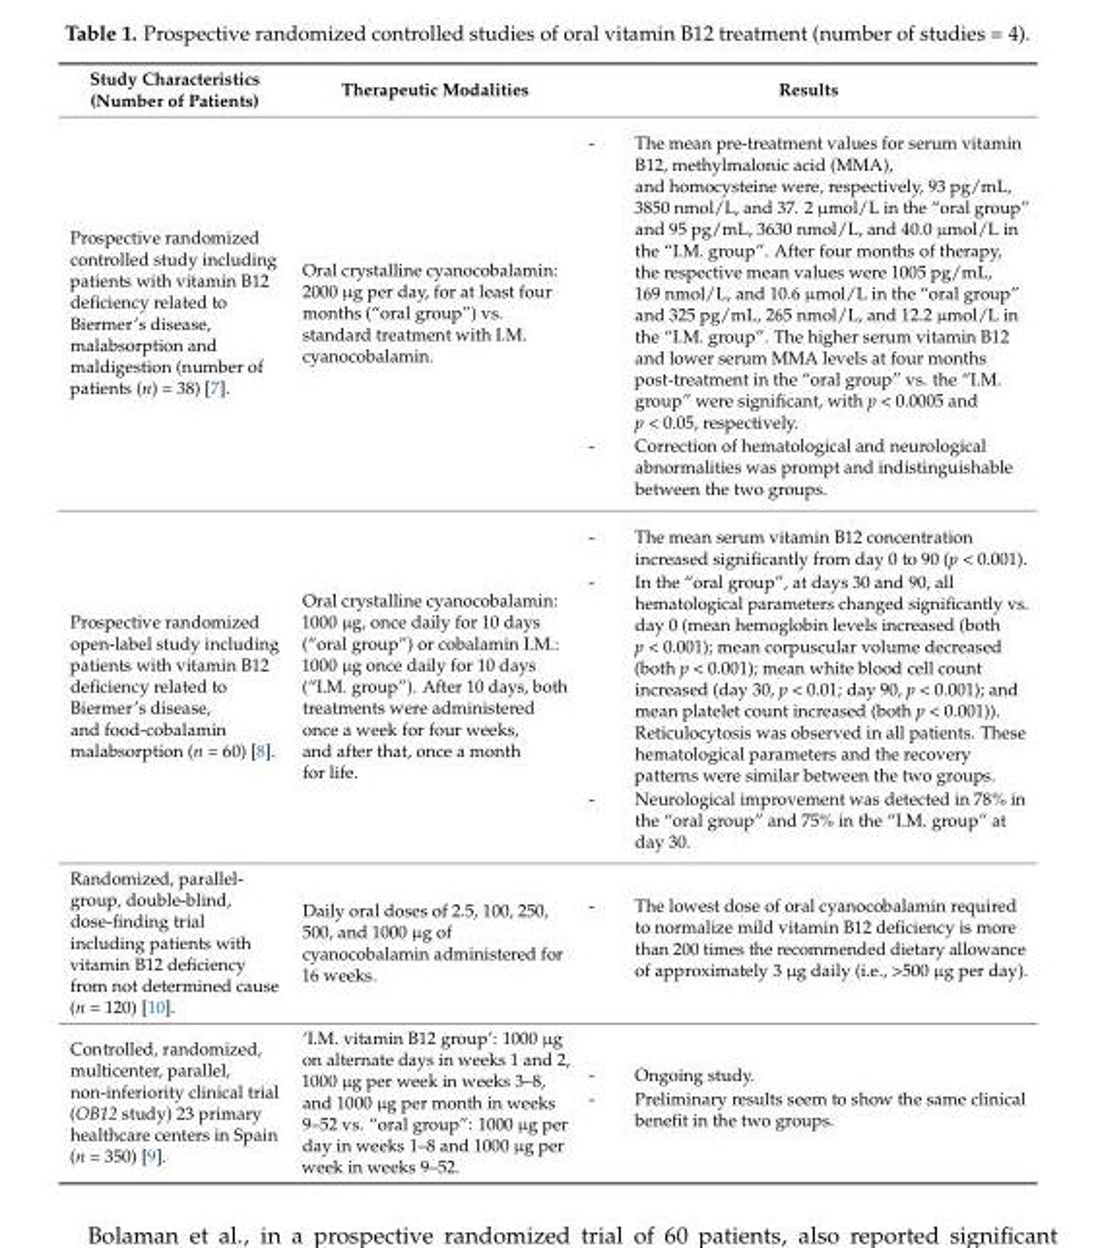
<table><thead><tr><td>Study Characteristics (Number of Patients)</td><td>Therapeutic Modalities</td><td>Results</td></tr></thead><tbody><tr><td>Prospective randomized controlled study including patients with vitamin B12 deficiency related to Biermer’s disease, malabsorption and maldigestion (number of patients (n) = 38) [7].</td><td>Oral crystalline cyanocobalamin: 2000 µg per day, for at least four months (“oral group”) vs. standard treatment with I.M. cyanocobalamin.</td><td>- The mean pre-treatment values for serum vitamin B12, methylmalonic acid (MMA), and homocysteine were, respectively, 93 pg/mL, 3850 nmol/L, and 37. 2 µmol/L in the “oral group” and 95 pg/mL, 3630 nmol/L, and 40.0 µmol/L in the “I.M. group”. After four months of therapy, the respective mean values were 1005 pg/mL, 169 nmol/L, and 10.6 µmol/L in the “oral group” and 325 pg/mL, 265 nmol/L, and 12.2 µmol/L in the “I.M. group”. The higher serum vitamin B12 and lower serum MMA levels at four months post-treatment in the “oral group” vs. the “I.M. group” were significant, with p &lt; 0.0005 and p &lt; 0.05, respectively. - Correction of hematological and neurological abnormalities was prompt and indistinguishable between the two groups.</td></tr><tr><td>Prospective randomized open-label study including patients with vitamin B12 deficiency related to Biermer’s disease, and food-cobalamin malabsorption (n = 60) [8].</td><td>Oral crystalline cyanocobalamin: 1000 µg, once daily for 10 days (“oral group”) or cobalamin I.M.: 1000 µg once daily for 10 days (“I.M. group”). After 10 days, both treatments were administered once a week for four weeks, and after that, once a month for life.</td><td>- The mean serum vitamin B12 concentration increased significantly from day 0 to 90 (p &lt; 0.001). - In the “oral group”, at days 30 and 90, all hematological parameters changed significantly vs. day 0 (mean hemoglobin levels increased (both p &lt; 0.001); mean corpuscular volume decreased (both p &lt; 0.001); mean white blood cell count increased (day 30, p &lt; 0.01; day 90, p &lt; 0.001); and mean platelet count increased (both p &lt; 0.001)). Reticulocytosis was observed in all patients. These hematological parameters and the recovery patterns were similar between the two groups. - Neurological improvement was detected in 78% in the “oral group” and 75% in the “I.M. group” at day 30.</td></tr><tr><td>Randomized, parallel- group, double-blind, dose-finding trial including patients with vitamin B12 deficiency from not determined cause (n = 120) [10].</td><td>Daily oral doses of 2.5, 100, 250, 500, and 1000 µg of cyanocobalamin administered for 16 weeks.</td><td>- The lowest dose of oral cyanocobalamin required to normalize mild vitamin B12 deficiency is more than 200 times the recommended dietary allowance of approximately 3 µg daily (i.e., &gt;500 µg per day).</td></tr><tr><td>Controlled, randomized, multicenter, parallel, non-inferiority clinical trial (OB12 study) 23 primary healthcare centers in Spain (n = 350) [9].</td><td>‘I.M. vitamin B12 group’: 1000 µg on alternate days in weeks 1 and 2, 1000 µg per week in weeks 3–8, and 1000 µg per month in weeks 9–52 vs. “oral group”: 1000 µg per day in weeks 1–8 and 1000 µg per week in weeks 9–52.</td><td>- Ongoing study. - Preliminary results seem to show the same clinical benefit in the two groups.</td></tr></tbody></table>